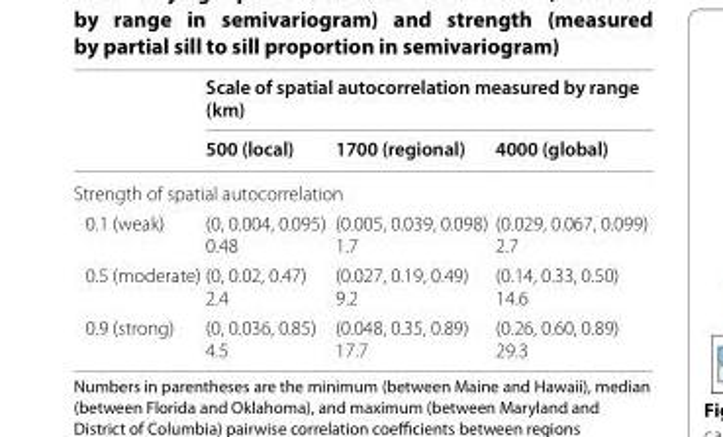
<table><thead><tr><td rowspan="2"></td><td colspan="3">Scale of spatial autocorrelation measured by range (km)</td></tr><tr><td>500 (local)</td><td>1700 (regional)</td><td>4000 (global)</td></tr></thead><tbody><tr><td colspan="4">Strength of spatial autocorrelation</td></tr><tr><td>0.1 (weak)</td><td>(0, 0.004, 0.095) 0.48</td><td>(0.005, 0.039, 0.098) 1.7</td><td>(0.029, 0.067, 0.099) 2.7</td></tr><tr><td>0.5 (moderate)</td><td>(0, 0.02, 0.47) 2.4</td><td>(0.027, 0.19, 0.49) 9.2</td><td>(0.14, 0.33, 0.50) 14.6</td></tr><tr><td>0.9 (strong)</td><td>(0, 0.036, 0.85) 4.5</td><td>(0.048, 0.35, 0.89) 17.7</td><td>(0.26, 0.60, 0.89) 29.3</td></tr></tbody></table>